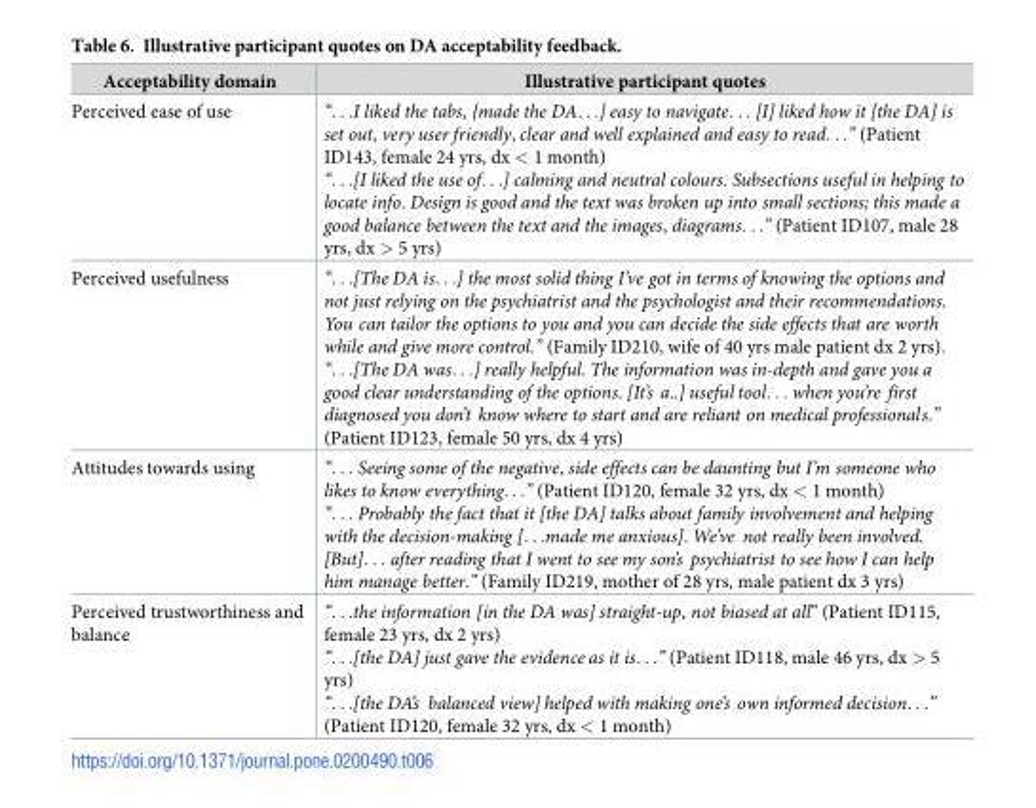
<table><thead><tr><td>Acceptability domain</td><td>Illustrative participant quotes</td></tr></thead><tbody><tr><td>Perceived ease of use</td><td>“. . .I liked the tabs, {made the DA. . .] easy to navigate. . . [I] liked how it [the DA] is set out, very user friendly, clear and well explained and easy to read. . .” (Patient ID143, female 24 yrs, dx &lt; 1 month) “. . .[I liked the use of. . .] calming and neutral colours. Subsections useful in helping to locate info. Design is good and the text was broken up into small sections; this made a good balance between the text and the images, diagrams. . .” (Patient ID107, male 28 yrs, dx &gt; 5 yrs)</td></tr><tr><td>Perceived usefulness</td><td>“. . .[The DA is. . .] the most solid thing I’ve got in terms of knowing the options and not just relying on the psychiatrist and the psychologist and their recommendations. You can tailor the options to you and you can decide the side effects that are worth while and give more control.” (Family ID210, wife of 40 yrs male patient dx 2 yrs). “. . .[The DA was. . .] really helpful. The information was in-depth and gave you a good clear understanding of the options. [It’s a..] useful tool. . . when you’re first diagnosed you don’t know where to start and are reliant on medical professionals.” (Patient ID123, female 50 yrs, dx 4 yrs)</td></tr><tr><td>Attitudes towards using</td><td>“. . . Seeing some of the negative, side effects can be daunting but I’m someone who likes to know everything. . .” (Patient ID120, female 32 yrs, dx &lt; 1 month) “. . . Probably the fact that it [the DA] talks about family involvement and helping with the decision-making [. . .made me anxious]. We’ve not really been involved. [But]. . . after reading that I went to see my son’s psychiatrist to see how I can help him manage better.” (Family ID219, mother of 28 yrs, male patient dx 3 yrs)</td></tr><tr><td>Perceived trustworthiness and balance</td><td>“. . .the information [in the DA was] straight-up, not biased at all” (Patient ID115, female 23 yrs, dx 2 yrs) “. . .[the DA] just gave the evidence as it is. . .” (Patient ID118, male 46 yrs, dx &gt; 5 yrs) “. . .[the DA’s balanced view] helped with making one’s own informed decision. . .” (Patient ID120, female 32 yrs, dx &lt; 1 month)</td></tr></tbody></table>